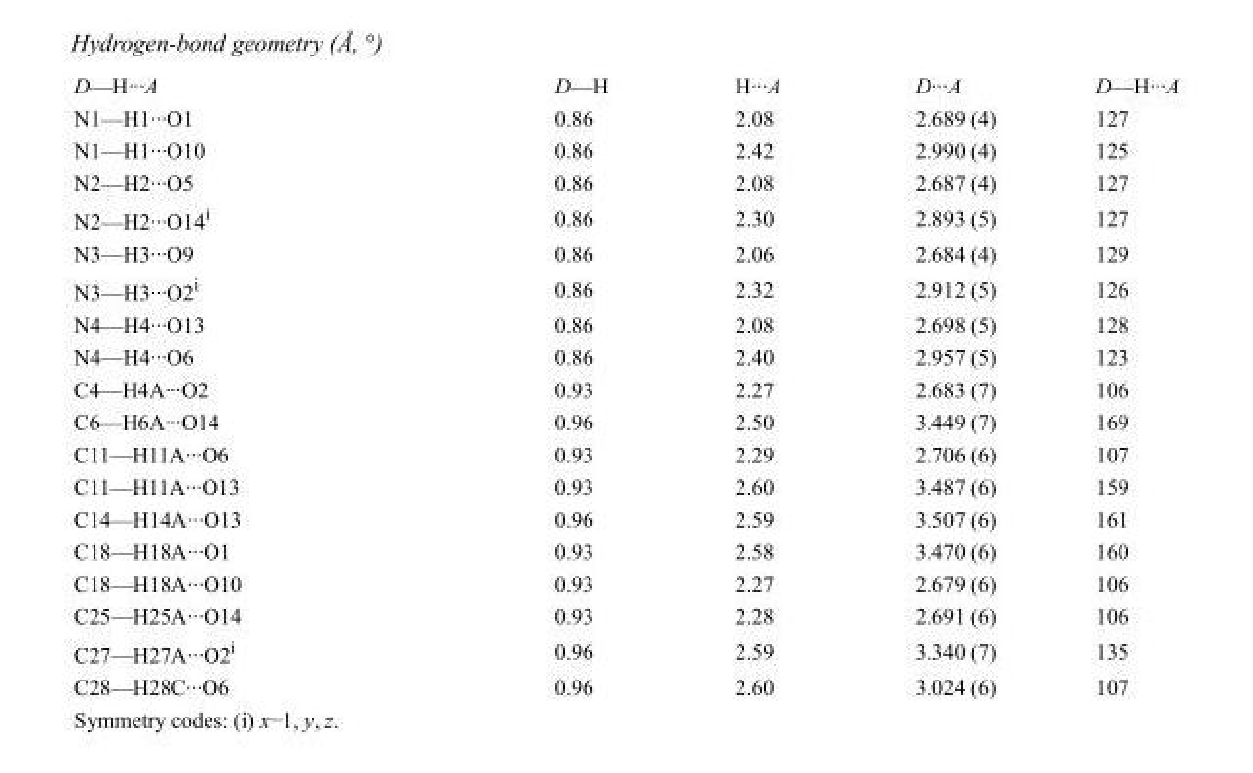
<table><tbody><tr><td>D—H···A</td><td>D—H</td><td>H···A</td><td>D···A</td><td>D—H···A</td></tr><tr><td>N1—H1···O1</td><td>0.86</td><td>2.08</td><td>2.689 (4)</td><td>127</td></tr><tr><td>N1—H1···O10</td><td>0.86</td><td>2.42</td><td>2.990 (4)</td><td>125</td></tr><tr><td>N2—H2···O5</td><td>0.86</td><td>2.08</td><td>2.687 (4)</td><td>127</td></tr><tr><td>N2—H2···O14<sup>i</sup></td><td>0.86</td><td>2.30</td><td>2.893 (5)</td><td>127</td></tr><tr><td>N3—H3···O9</td><td>0.86</td><td>2.06</td><td>2.684 (4)</td><td>129</td></tr><tr><td>N3—H3···O2<sup>i</sup></td><td>0.86</td><td>2.32</td><td>2.912 (5)</td><td>126</td></tr><tr><td>N4—H4···O13</td><td>0.86</td><td>2.08</td><td>2.698 (5)</td><td>128</td></tr><tr><td>N4—H4···O6</td><td>0.86</td><td>2.40</td><td>2.957 (5)</td><td>123</td></tr><tr><td>C4—H4A···O2</td><td>0.93</td><td>2.27</td><td>2.683 (7)</td><td>106</td></tr><tr><td>C6—H6A···O14</td><td>0.96</td><td>2.50</td><td>3.449 (7)</td><td>169</td></tr><tr><td>C11—H11A···O6</td><td>0.93</td><td>2.29</td><td>2.706 (6)</td><td>107</td></tr><tr><td>C11—H11A···O13</td><td>0.93</td><td>2.60</td><td>3.487 (6)</td><td>159</td></tr><tr><td>C14—H14A···O13</td><td>0.96</td><td>2.59</td><td>3.507 (6)</td><td>161</td></tr><tr><td>C18—H18A···O1</td><td>0.93</td><td>2.58</td><td>3.470 (6)</td><td>160</td></tr><tr><td>C18—H18A···O10</td><td>0.93</td><td>2.27</td><td>2.679 (6)</td><td>106</td></tr><tr><td>C25—H25A···O14</td><td>0.93</td><td>2.28</td><td>2.691 (6)</td><td>106</td></tr><tr><td>C27—H27A···O2<sup>i</sup></td><td>0.96</td><td>2.59</td><td>3.340 (7)</td><td>135</td></tr><tr><td>C28—H28C···O6</td><td>0.96</td><td>2.60</td><td>3.024 (6)</td><td>107</td></tr></tbody></table>